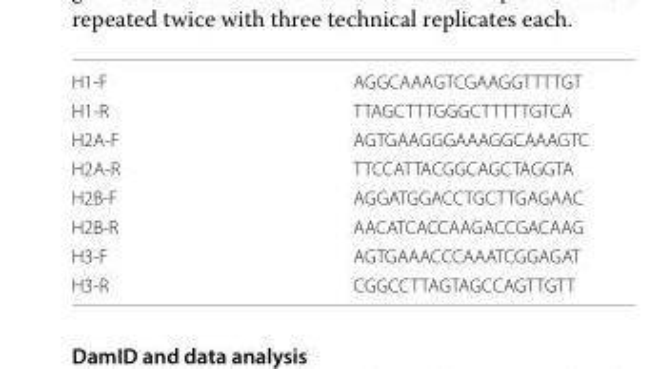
<table><tbody><tr><td>H1-F</td><td>AGGCAAAGTCGAAGGTTTTGT</td></tr><tr><td>H1-R</td><td>TTAGCTTTGGGCTTTTTGTCA</td></tr><tr><td>H2A-F</td><td>AGTGAAGGGAAAGGCAAAGTC</td></tr><tr><td>H2A-R</td><td>TTCCATTACGGCAGCTAGGTA</td></tr><tr><td>H2B-F</td><td>AGGATGGACCTGCTTGAGAAC</td></tr><tr><td>H2B-R</td><td>AACATCACCAAGACCGACAAG</td></tr><tr><td>H3-F</td><td>AGTGAAACCCAAATCGGAGAT</td></tr><tr><td>H3-R</td><td>CGGCCTTAGTAGCCAGTTGTT</td></tr></tbody></table>